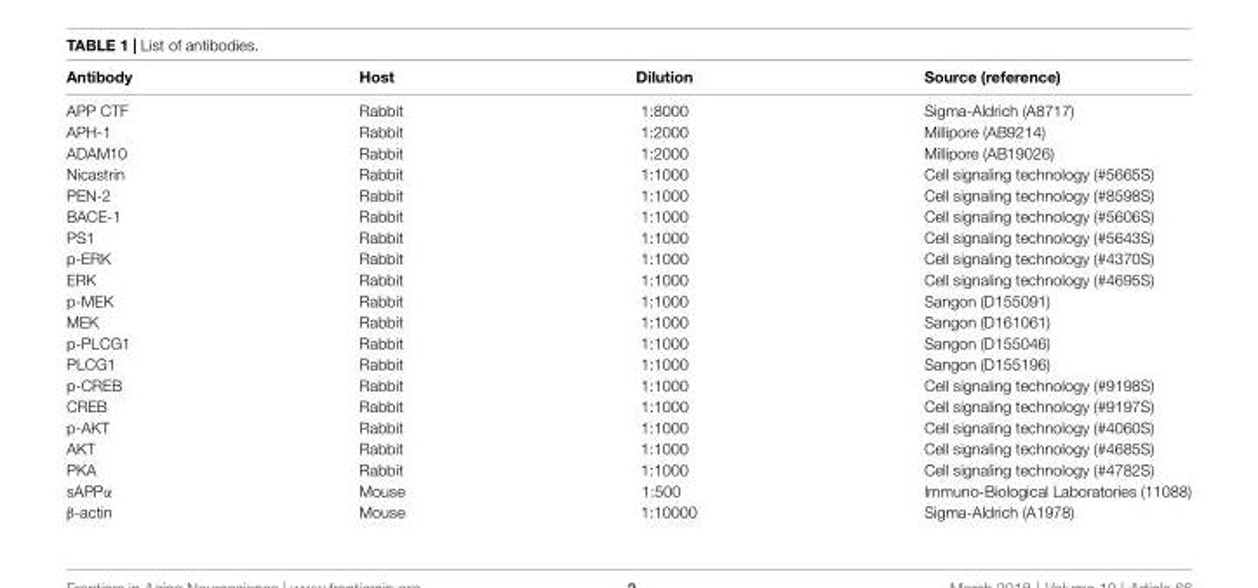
<table><thead><tr><td>Antibody</td><td>Host</td><td>Dilution</td><td>Source (reference)</td></tr></thead><tbody><tr><td>APP CTF</td><td>Rabbit</td><td>1:8000</td><td>Sigma-Aldrich (A8717)</td></tr><tr><td>APH-1</td><td>Rabbit</td><td>1:2000</td><td>Millipore (AB9214)</td></tr><tr><td>ADAM10</td><td>Rabbit</td><td>1:2000</td><td>Millipore (AB19026)</td></tr><tr><td>Nicastrin</td><td>Rabbit</td><td>1:1000</td><td>Cell signaling technology (#5665S)</td></tr><tr><td>PEN-2</td><td>Rabbit</td><td>1:1000</td><td>Cell signaling technology (#8598S)</td></tr><tr><td>BACE-1</td><td>Rabbit</td><td>1:1000</td><td>Cell signaling technology (#5606S)</td></tr><tr><td>PS1</td><td>Rabbit</td><td>1:1000</td><td>Cell signaling technology (#5643S)</td></tr><tr><td>p-ERK</td><td>Rabbit</td><td>1:1000</td><td>Cell signaling technology (#4370S)</td></tr><tr><td>ERK</td><td>Rabbit</td><td>1:1000</td><td>Cell signaling technology (#4695S)</td></tr><tr><td>p-MEK</td><td>Rabbit</td><td>1:1000</td><td>Sangon (D155091)</td></tr><tr><td>MEK</td><td>Rabbit</td><td>1:1000</td><td>Sangon (D161061)</td></tr><tr><td>p-PLCG1</td><td>Rabbit</td><td>1:1000</td><td>Sangon (D155046)</td></tr><tr><td>PLCG1</td><td>Rabbit</td><td>1:1000</td><td>Sangon (D155196)</td></tr><tr><td>p-CREB</td><td>Rabbit</td><td>1:1000</td><td>Cell signaling technology (#9198S)</td></tr><tr><td>CREB</td><td>Rabbit</td><td>1:1000</td><td>Cell signaling technology (#9197S)</td></tr><tr><td>p-AKT</td><td>Rabbit</td><td>1:1000</td><td>Cell signaling technology (#4060S)</td></tr><tr><td>AKT</td><td>Rabbit</td><td>1:1000</td><td>Cell signaling technology (#4685S)</td></tr><tr><td>PKA</td><td>Rabbit</td><td>1:1000</td><td>Cell signaling technology (#4782S)</td></tr><tr><td>sAPPα</td><td>Mouse</td><td>1:500</td><td>Immuno-Biological Laboratories (11088)</td></tr><tr><td>β-actin</td><td>Mouse</td><td>1:10000</td><td>Sigma-Aldrich (A1978)</td></tr></tbody></table>